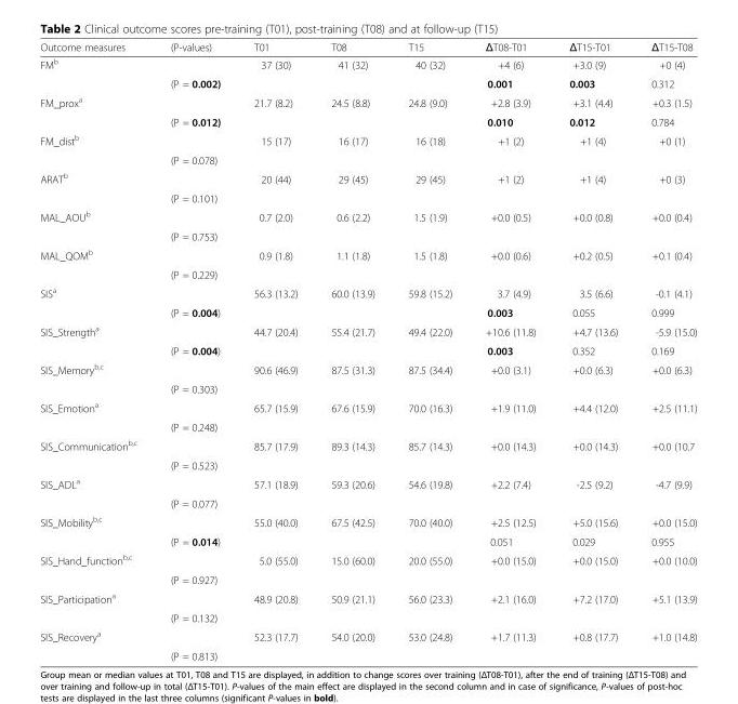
<table><thead><tr><td>Outcome measures</td><td>(P-values)</td><td>T01</td><td>T08</td><td>T15</td><td>ΔT08-T01</td><td>ΔT15-T01</td><td>ΔT15-T08</td></tr></thead><tbody><tr><td rowspan="2">FM<sup>b</sup></td><td></td><td>37 (30)</td><td>41 (32)</td><td>40 (32)</td><td>+4 (6)</td><td>+3.0 (9)</td><td>+0 (4)</td></tr><tr><td>(P = 0.002)</td><td></td><td></td><td></td><td>0.001</td><td>0.003</td><td>0.312</td></tr><tr><td rowspan="2">FM_prox<sup>a</sup></td><td></td><td>21.7 (8.2)</td><td>24.5 (8.8)</td><td>24.8 (9.0)</td><td>+2.8 (3.9)</td><td>+3.1 (4.4)</td><td>+0.3 (1.5)</td></tr><tr><td>(P = 0.012)</td><td></td><td></td><td></td><td>0.010</td><td>0.012</td><td>0.784</td></tr><tr><td rowspan="2">FM_dist<sup>b</sup></td><td></td><td>15 (17)</td><td>16 (17)</td><td>16 (18)</td><td>+1 (2)</td><td>+1 (4)</td><td>+0 (1)</td></tr><tr><td>(P = 0.078)</td><td></td><td></td><td></td><td></td><td></td><td></td></tr><tr><td rowspan="2">ARAT<sup>b</sup></td><td></td><td>20 (44)</td><td>29 (45)</td><td>29 (45)</td><td>+1 (2)</td><td>+1 (4)</td><td>+0 (3)</td></tr><tr><td>(P = 0.101)</td><td></td><td></td><td></td><td></td><td></td><td></td></tr><tr><td rowspan="2">MAL_AOU<sup>b</sup></td><td></td><td>0.7 (2.0)</td><td>0.6 (2.2)</td><td>1.5 (1.9)</td><td>+0.0 (0.5)</td><td>+0.0 (0.8)</td><td>+0.0 (0.4)</td></tr><tr><td>(P = 0.753)</td><td></td><td></td><td></td><td></td><td></td><td></td></tr><tr><td rowspan="2">MAL_QOM<sup>b</sup></td><td></td><td>0.9 (1.8)</td><td>1.1 (1.8)</td><td>1.5 (1.8)</td><td>+0.0 (0.6)</td><td>+0.2 (0.5)</td><td>+0.1 (0.4)</td></tr><tr><td>(P = 0.229)</td><td></td><td></td><td></td><td></td><td></td><td></td></tr><tr><td rowspan="2">SIS<sup>a</sup></td><td></td><td>56.3 (13.2)</td><td>60.0 (13.9)</td><td>59.8 (15.2)</td><td>3.7 (4.9)</td><td>3.5 (6.6)</td><td>-0.1 (4.1)</td></tr><tr><td>(P = 0.004)</td><td></td><td></td><td></td><td>0.003</td><td>0.055</td><td>0.999</td></tr><tr><td rowspan="2">SIS_Strength<sup>a</sup></td><td></td><td>44.7 (20.4)</td><td>55.4 (21.7)</td><td>49.4 (22.0)</td><td>+10.6 (11.8)</td><td>+4.7 (13.6)</td><td>-5.9 (15.0)</td></tr><tr><td>(P = 0.004)</td><td></td><td></td><td></td><td>0.003</td><td>0.352</td><td>0.169</td></tr><tr><td rowspan="2">SIS_Memory<sup>b,c</sup></td><td></td><td>90.6 (46.9)</td><td>87.5 (31.3)</td><td>87.5 (34.4)</td><td>+0.0 (3.1)</td><td>+0.0 (6.3)</td><td>+0.0 (6.3)</td></tr><tr><td>(P = 0.303)</td><td></td><td></td><td></td><td></td><td></td><td></td></tr><tr><td rowspan="2">SIS_Emotion<sup>a</sup></td><td></td><td>65.7 (15.9)</td><td>67.6 (15.9)</td><td>70.0 (16.3)</td><td>+1.9 (11.0)</td><td>+4.4 (12.0)</td><td>+2.5 (11.1)</td></tr><tr><td>(P = 0.248)</td><td></td><td></td><td></td><td></td><td></td><td></td></tr><tr><td rowspan="2">SIS_Communication<sup>b,c</sup></td><td></td><td>85.7 (17.9)</td><td>89.3 (14.3)</td><td>85.7 (14.3)</td><td>+0.0 (14.3)</td><td>+0.0 (14.3)</td><td>+0.0 (10.7</td></tr><tr><td>(P = 0.523)</td><td></td><td></td><td></td><td></td><td></td><td></td></tr><tr><td rowspan="2">SIS_ADL<sup>a</sup></td><td></td><td>57.1 (18.9)</td><td>59.3 (20.6)</td><td>54.6 (19.8)</td><td>+2.2 (7.4)</td><td>-2.5 (9.2)</td><td>-4.7 (9.9)</td></tr><tr><td>(P = 0.077)</td><td></td><td></td><td></td><td></td><td></td><td></td></tr><tr><td rowspan="2">SIS_Mobility<sup>b,c</sup></td><td></td><td>55.0 (40.0)</td><td>67.5 (42.5)</td><td>70.0 (40.0)</td><td>+2.5 (12.5)</td><td>+5.0 (15.6)</td><td>+0.0 (15.0)</td></tr><tr><td>(P = 0.014)</td><td></td><td></td><td></td><td>0.051</td><td>0.029</td><td>0.955</td></tr><tr><td rowspan="2">SIS_Hand_function<sup>b,c</sup></td><td></td><td>5.0 (55.0)</td><td>15.0 (60.0)</td><td>20.0 (55.0)</td><td>+0.0 (15.0)</td><td>+0.0 (15.0)</td><td>+0.0 (10.0)</td></tr><tr><td>(P = 0.927)</td><td></td><td></td><td></td><td></td><td></td><td></td></tr><tr><td rowspan="2">SIS_Participation<sup>a</sup></td><td></td><td>48.9 (20.8)</td><td>50.9 (21.1)</td><td>56.0 (23.3)</td><td>+2.1 (16.0)</td><td>+7.2 (17.0)</td><td>+5.1 (13.9)</td></tr><tr><td>(P = 0.132)</td><td></td><td></td><td></td><td></td><td></td><td></td></tr><tr><td rowspan="2">SIS_Recovery<sup>a</sup></td><td></td><td>52.3 (17.7)</td><td>54.0 (20.0)</td><td>53.0 (24.8)</td><td>+1.7 (11.3)</td><td>+0.8 (17.7)</td><td>+1.0 (14.8)</td></tr><tr><td>(P = 0.813)</td><td></td><td></td><td></td><td></td><td></td><td></td></tr></tbody></table>